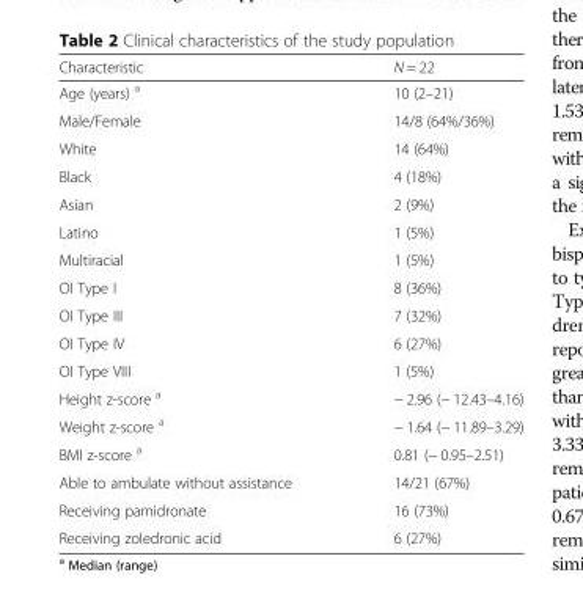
<table><thead><tr><td>Characteristic</td><td>N = 22</td></tr></thead><tbody><tr><td>Age (years) <sup>a</sup></td><td>10 (2–21)</td></tr><tr><td>Male/Female</td><td>14/8 (64%/36%)</td></tr><tr><td>White</td><td>14 (64%)</td></tr><tr><td>Black</td><td>4 (18%)</td></tr><tr><td>Asian</td><td>2 (9%)</td></tr><tr><td>Latino</td><td>1 (5%)</td></tr><tr><td>Multiracial</td><td>1 (5%)</td></tr><tr><td>OI Type I</td><td>8 (36%)</td></tr><tr><td>OI Type III</td><td>7 (32%)</td></tr><tr><td>OI Type IV</td><td>6 (27%)</td></tr><tr><td>OI Type VIII</td><td>1 (5%)</td></tr><tr><td>Height z-score <sup>a</sup></td><td>− 2.96 (− 12.43–4.16)</td></tr><tr><td>Weight z-score <sup>a</sup></td><td>− 1.64 (− 11.89–3.29)</td></tr><tr><td>BMI z-score <sup>a</sup></td><td>0.81 (− 0.95–2.51)</td></tr><tr><td>Able to ambulate without assistance</td><td>14/21 (67%)</td></tr><tr><td>Receiving pamidronate</td><td>16 (73%)</td></tr><tr><td>Receiving zoledronic acid</td><td>6 (27%)</td></tr></tbody></table>